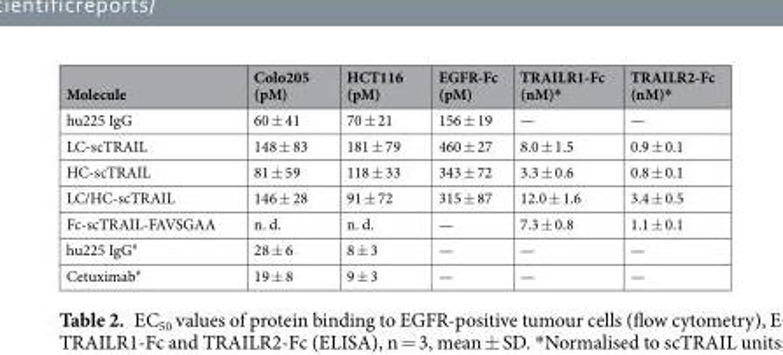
<table><thead><tr><td>Molecule</td><td>Colo205 (pM)</td><td>HCT116 (pM)</td><td>EGFR-Fc (pM)</td><td>TRAILR1-Fc (nM)*</td><td>TRAILR2-Fc (nM)*</td></tr></thead><tbody><tr><td>hu225 IgG</td><td>60 ± 41</td><td>70 ± 21</td><td>156 ± 19</td><td>—</td><td>—</td></tr><tr><td>LC-scTRAIL</td><td>148 ± 83</td><td>181 ± 79</td><td>460 ± 27</td><td>8.0 ± 1.5</td><td>0.9 ± 0.1</td></tr><tr><td>HC-scTRAIL</td><td>81 ± 59</td><td>118 ± 33</td><td>343 ± 72</td><td>3.3 ± 0.6</td><td>0.8 ± 0.1</td></tr><tr><td>LC/HC-scTRAIL</td><td>146 ± 28</td><td>91 ± 72</td><td>315 ± 87</td><td>12.0 ± 1.6</td><td>3.4 ± 0.5</td></tr><tr><td>Fc-scTRAIL-FAVSGAA</td><td>n. d.</td><td>n. d.</td><td>—</td><td>7.3 ± 0.8</td><td>1.1 ± 0.1</td></tr><tr><td>hu225 IgG<sup>#</sup></td><td>28 ± 6</td><td>8 ± 3</td><td>—</td><td>—</td><td>—</td></tr><tr><td>Cetuximab<sup>#</sup></td><td>19 ± 8</td><td>9 ± 3</td><td>—</td><td>—</td><td>—</td></tr></tbody></table>